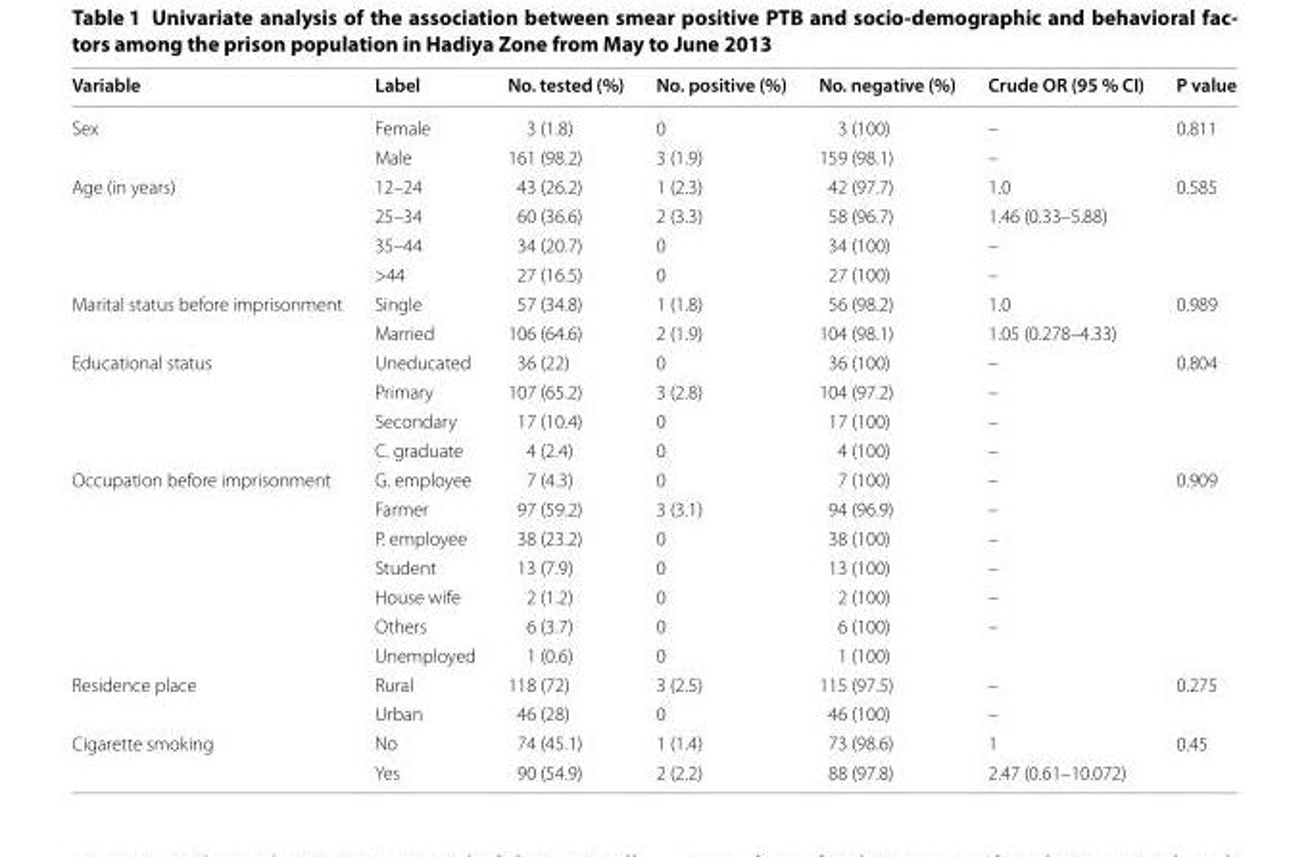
<table><thead><tr><td>Variable</td><td>Label</td><td>No. tested (%)</td><td>No. positive (%)</td><td>No. negative (%)</td><td>Crude OR (95 % CI)</td><td>P value</td></tr></thead><tbody><tr><td rowspan="2">Sex</td><td>Female</td><td>3 (1.8)</td><td>0</td><td>3 (100)</td><td>–</td><td rowspan="2">0.811</td></tr><tr><td>Male</td><td>161 (98.2)</td><td>3 (1.9)</td><td>159 (98.1)</td><td>–</td></tr><tr><td rowspan="4">Age (in years)</td><td>12–24</td><td>43 (26.2)</td><td>1 (2.3)</td><td>42 (97.7)</td><td>1.0</td><td rowspan="4">0.585</td></tr><tr><td>25–34</td><td>60 (36.6)</td><td>2 (3.3)</td><td>58 (96.7)</td><td>1.46 (0.33–5.88)</td></tr><tr><td>35–44</td><td>34 (20.7)</td><td>0</td><td>34 (100)</td><td>–</td></tr><tr><td>&gt;44</td><td>27 (16.5)</td><td>0</td><td>27 (100)</td><td>–</td></tr><tr><td rowspan="2">Marital status before imprisonment</td><td>Single</td><td>57 (34.8)</td><td>1 (1.8)</td><td>56 (98.2)</td><td>1.0</td><td rowspan="2">0.989</td></tr><tr><td>Married</td><td>106 (64.6)</td><td>2 (1.9)</td><td>104 (98.1)</td><td>1.05 (0.278–4.33)</td></tr><tr><td rowspan="4">Educational status</td><td>Uneducated</td><td>36 (22)</td><td>0</td><td>36 (100)</td><td>–</td><td rowspan="4">0.804</td></tr><tr><td>Primary</td><td>107 (65.2)</td><td>3 (2.8)</td><td>104 (97.2)</td><td>–</td></tr><tr><td>Secondary</td><td>17 (10.4)</td><td>0</td><td>17 (100)</td><td>–</td></tr><tr><td>C. graduate</td><td>4 (2.4)</td><td>0</td><td>4 (100)</td><td>–</td></tr><tr><td rowspan="7">Occupation before imprisonment</td><td>G. employee</td><td>7 (4.3)</td><td>0</td><td>7 (100)</td><td>–</td><td rowspan="7">0.909</td></tr><tr><td>Farmer</td><td>97 (59.2)</td><td>3 (3.1)</td><td>94 (96.9)</td><td>–</td></tr><tr><td>P. employee</td><td>38 (23.2)</td><td>0</td><td>38 (100)</td><td>–</td></tr><tr><td>Student</td><td>13 (7.9)</td><td>0</td><td>13 (100)</td><td>–</td></tr><tr><td>House wife</td><td>2 (1.2)</td><td>0</td><td>2 (100)</td><td>–</td></tr><tr><td>Others</td><td>6 (3.7)</td><td>0</td><td>6 (100)</td><td>–</td></tr><tr><td>Unemployed</td><td>1 (0.6)</td><td>0</td><td>1 (100)</td><td></td></tr><tr><td rowspan="2">Residence place</td><td>Rural</td><td>118 (72)</td><td>3 (2.5)</td><td>115 (97.5)</td><td>–</td><td rowspan="2">0.275</td></tr><tr><td>Urban</td><td>46 (28)</td><td>0</td><td>46 (100)</td><td>–</td></tr><tr><td rowspan="2">Cigarette smoking</td><td>No</td><td>74 (45.1)</td><td>1 (1.4)</td><td>73 (98.6)</td><td>1</td><td rowspan="2">0.45</td></tr><tr><td>Yes</td><td>90 (54.9)</td><td>2 (2.2)</td><td>88 (97.8)</td><td>2.47 (0.61–10.072)</td></tr></tbody></table>